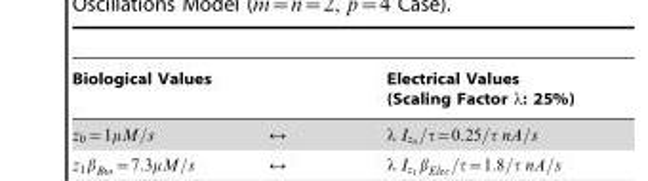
<table><thead><tr><td>Biological Values</td><td>Electrical Values (Scaling Factor l: 25%)</td></tr></thead><tbody></tbody></table>